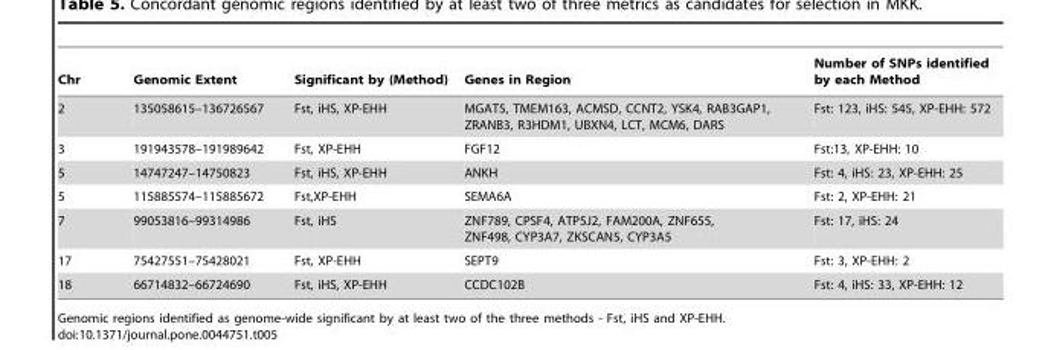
<table><thead><tr><td>Chr</td><td>Genomic Extent</td><td>Significant by (Method)</td><td>Genes in Region</td><td>Number of SNPs identified by each Method</td></tr></thead><tbody><tr><td>2</td><td>135058615–136726567</td><td>Fst, iHS, XP-EHH</td><td>MGAT5, TMEM163, ACMSD, CCNT2, YSK4, RAB3GAP1, ZRANB3, R3HDM1, UBXN4, LCT, MCM6, DARS</td><td>Fst: 123, iHS: 545, XP-EHH: 572</td></tr><tr><td>3</td><td>191943578–191989642</td><td>Fst, XP-EHH</td><td>FGF12</td><td>Fst:13, XP-EHH: 10</td></tr><tr><td>5</td><td>14747247–14750823</td><td>Fst, iHS, XP-EHH</td><td>ANKH</td><td>Fst: 4, iHS: 23, XP-EHH: 25</td></tr><tr><td>5</td><td>115885574–115885672</td><td>Fst,XP-EHH</td><td>SEMA6A</td><td>Fst: 2, XP-EHH: 21</td></tr><tr><td>7</td><td>99053816–99314986</td><td>Fst, iHS</td><td>ZNF789, CPSF4, ATP5J2, FAM200A, ZNF655, ZNF498, CYP3A7, ZKSCAN5, CYP3A5</td><td>Fst: 17, iHS: 24</td></tr><tr><td>17</td><td>75427551–75428021</td><td>Fst, XP-EHH</td><td>SEPT9</td><td>Fst: 3, XP-EHH: 2</td></tr><tr><td>18</td><td>66714832–66724690</td><td>Fst, iHS, XP-EHH</td><td>CCDC102B</td><td>Fst: 4, iHS: 33, XP-EHH: 12</td></tr></tbody></table>